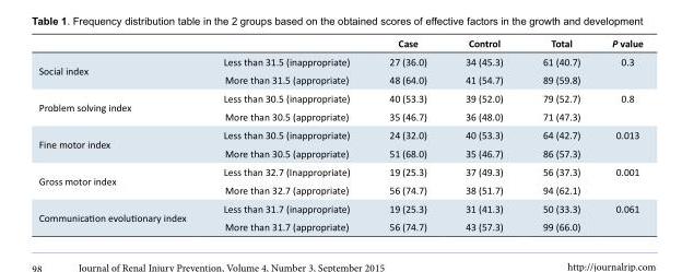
<table><thead><tr><td></td><td></td><td>Case</td><td>Control</td><td>Total</td><td>P value</td></tr></thead><tbody><tr><td rowspan="2">Social index</td><td>Less than 31.5 (inappropriate)</td><td>27 (36.0)</td><td>34 (45.3)</td><td>61 (40.7)</td><td>0.3</td></tr><tr><td>More than 31.5 (appropriate)</td><td>48 (64.0)</td><td>41 (54.7)</td><td>89 (59.8)</td><td></td></tr><tr><td rowspan="2">Problem solving index</td><td>Less than 30.5 (inappropriate)</td><td>40 (53.3)</td><td>39 (52.0)</td><td>79 (52.7)</td><td>0.8</td></tr><tr><td>More than 30.5 (appropriate)</td><td>35 (46.7)</td><td>36 (48.0)</td><td>71 (47.3)</td><td></td></tr><tr><td rowspan="2">Fine motor index</td><td>Less than 30.5 (inappropriate)</td><td>24 (32.0)</td><td>40 (53.3)</td><td>64 (42.7)</td><td>0.013</td></tr><tr><td>More than 30.5 (appropriate)</td><td>51 (68.0)</td><td>35 (46.7)</td><td>86 (57.3)</td><td></td></tr><tr><td rowspan="2">Gross motor index</td><td>Less than 32.7 (Inappropriate)</td><td>19 (25.3)</td><td>37 (49.3)</td><td>56 (37.3)</td><td>0.001</td></tr><tr><td>More than 32.7 (appropriate)</td><td>56 (74.7)</td><td>38 (51.7)</td><td>94 (62.1)</td><td></td></tr><tr><td rowspan="2">Communication evolutionary index</td><td>Less than 31.7 (inappropriate)</td><td>19 (25.3)</td><td>31 (41.3)</td><td>50 (33.3)</td><td>0.061</td></tr><tr><td>More than 31.7 (appropriate)</td><td>56 (74.7)</td><td>43 (57.3)</td><td>99 (66.0)</td><td></td></tr></tbody></table>